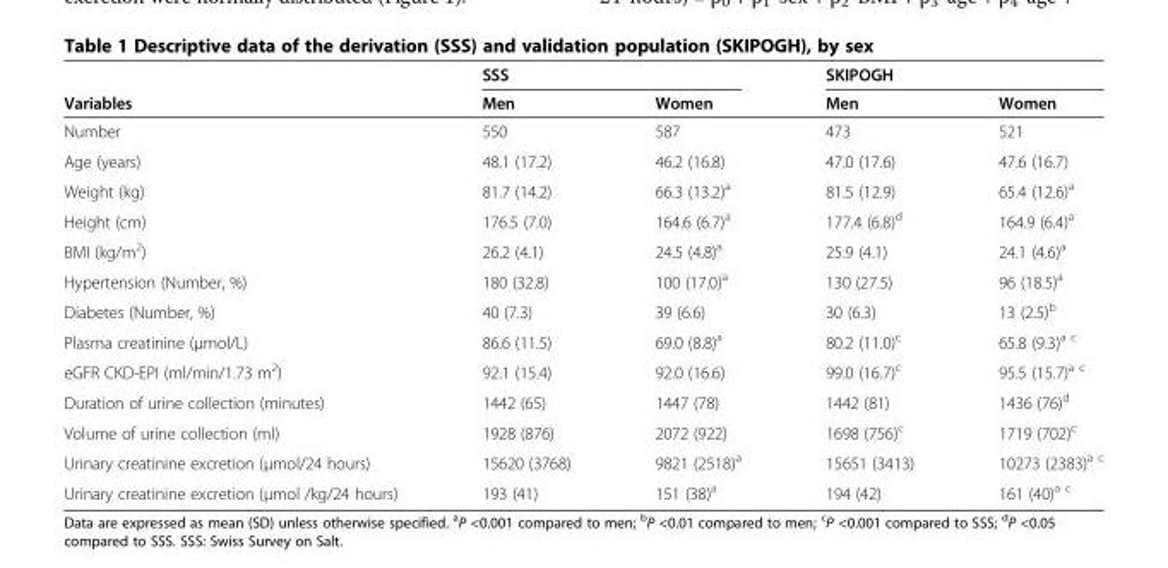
<table><thead><tr><td rowspan="2">Variables</td><td colspan="2">SSS</td><td colspan="2">SKIPOGH</td></tr><tr><td>Men</td><td>Women</td><td>Men</td><td>Women</td></tr></thead><tbody><tr><td>Number</td><td>550</td><td>587</td><td>473</td><td>521</td></tr><tr><td>Age (years)</td><td>48.1 (17.2)</td><td>46.2 (16.8)</td><td>47.0 (17.6)</td><td>47.6 (16.7)</td></tr><tr><td>Weight (kg)</td><td>81.7 (14.2)</td><td>66.3 (13.2)<sup>a</sup></td><td>81.5 (12.9)</td><td>65.4 (12.6)<sup>a</sup></td></tr><tr><td>Height (cm)</td><td>176.5 (7.0)</td><td>164.6 (6.7)<sup>a</sup></td><td>177.4 (6.8)<sup>d</sup></td><td>164.9 (6.4)<sup>a</sup></td></tr><tr><td>BMI (kg/m<sup>2</sup>)</td><td>26.2 (4.1)</td><td>24.5 (4.8)<sup>a</sup></td><td>25.9 (4.1)</td><td>24.1 (4.6)<sup>a</sup></td></tr><tr><td>Hypertension (Number, %)</td><td>180 (32.8)</td><td>100 (17.0)<sup>a</sup></td><td>130 (27.5)</td><td>96 (18.5)<sup>a</sup></td></tr><tr><td>Diabetes (Number, %)</td><td>40 (7.3)</td><td>39 (6.6)</td><td>30 (6.3)</td><td>13 (2.5)<sup>b</sup></td></tr><tr><td>Plasma creatinine (μmol/L)</td><td>86.6 (11.5)</td><td>69.0 (8.8)<sup>a</sup></td><td>80.2 (11.0)<sup>c</sup></td><td>65.8 (9.3)<sup>a c</sup></td></tr><tr><td>eGFR CKD-EPI (ml/min/1.73 m<sup>2</sup>)</td><td>92.1 (15.4)</td><td>92.0 (16.6)</td><td>99.0 (16.7)<sup>c</sup></td><td>95.5 (15.7)<sup>a c</sup></td></tr><tr><td>Duration of urine collection (minutes)</td><td>1442 (65)</td><td>1447 (78)</td><td>1442 (81)</td><td>1436 (76)<sup>d</sup></td></tr><tr><td>Volume of urine collection (ml)</td><td>1928 (876)</td><td>2072 (922)</td><td>1698 (756)<sup>c</sup></td><td>1719 (702)<sup>c</sup></td></tr><tr><td>Urinary creatinine excretion (μmol/24 hours)</td><td>15620 (3768)</td><td>9821 (2518)<sup>a</sup></td><td>15651 (3413)</td><td>10273 (2383)<sup>a c</sup></td></tr><tr><td>Urinary creatinine excretion (μmol /kg/24 hours)</td><td>193 (41)</td><td>151 (38)<sup>a</sup></td><td>194 (42)</td><td>161 (40)<sup>a c</sup></td></tr></tbody></table>